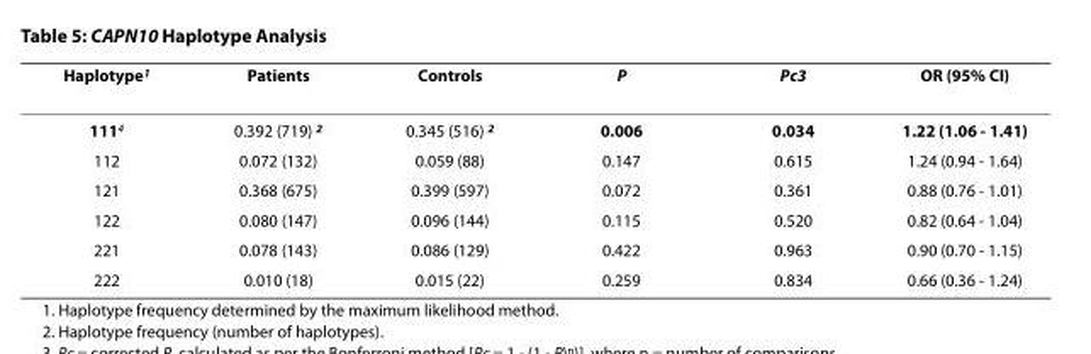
<table><thead><tr><td>Haplotype<sup>1</sup></td><td>Patients</td><td>Controls</td><td>P</td><td>Pc<sup>3</sup></td><td>OR (95% CI)</td></tr></thead><tbody><tr><td>111<sup>4</sup></td><td>0.392 (719) <sup>2</sup></td><td>0.345 (516) <sup>2</sup></td><td>0.006</td><td>0.034</td><td>1.22 (1.06 - 1.41)</td></tr><tr><td>112</td><td>0.072 (132)</td><td>0.059 (88)</td><td>0.147</td><td>0.615</td><td>1.24 (0.94 - 1.64)</td></tr><tr><td>121</td><td>0.368 (675)</td><td>0.399 (597)</td><td>0.072</td><td>0.361</td><td>0.88 (0.76 - 1.01)</td></tr><tr><td>122</td><td>0.080 (147)</td><td>0.096 (144)</td><td>0.115</td><td>0.520</td><td>0.82 (0.64 - 1.04)</td></tr><tr><td>221</td><td>0.078 (143)</td><td>0.086 (129)</td><td>0.422</td><td>0.963</td><td>0.90 (0.70 - 1.15)</td></tr><tr><td>222</td><td>0.010 (18)</td><td>0.015 (22)</td><td>0.259</td><td>0.834</td><td>0.66 (0.36 - 1.24)</td></tr></tbody></table>